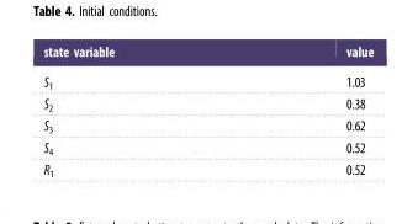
<table><thead><tr><td>state variable</td><td>value</td></tr></thead><tbody><tr><td>S<sub>1</sub></td><td>1.03</td></tr><tr><td>S<sub>2</sub></td><td>0.38</td></tr><tr><td>S<sub>3</sub></td><td>0.62</td></tr><tr><td>S<sub>4</sub></td><td>0.52</td></tr><tr><td>R<sub>1</sub></td><td>0.52</td></tr></tbody></table>